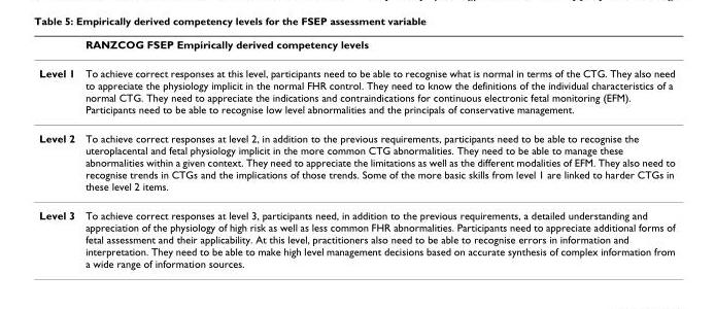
<table><thead><tr><td></td><td>RANZCOG FSEP Empirically derived competency levels</td></tr></thead><tbody><tr><td>Level 1</td><td>To achieve correct responses at this level, participants need to be able to recognise what is normal in terms of the CTG. They also need to appreciate the physiology implicit in the normal FHR control. They need to know the definitions of the individual characteristics of a normal CTG. They need to appreciate the indications and contraindications for continuous electronic fetal monitoring (EFM). Participants need to be able to recognise low level abnormalities and the principals of conservative management.</td></tr><tr><td>Level 2</td><td>To achieve correct responses at level 2, in addition to the previous requirements, participants need to be able to recognise the uteroplacental and fetal physiology implicit in the more common CTG abnormalities. They need to be able to manage these abnormalities within a given context. They need to appreciate the limitations as well as the different modalities of EFM. They also need to recognise trends in CTGs and the implications of those trends. Some of the more basic skills from level 1 are linked to harder CTGs in these level 2 items.</td></tr><tr><td>Level 3</td><td>To achieve correct responses at level 3, participants need, in addition to the previous requirements, a detailed understanding and appreciation of the physiology of high risk as well as less common FHR abnormalities. Participants need to appreciate additional forms of fetal assessment and their applicability. At this level, practitioners also need to be able to recognise errors in information and interpretation. They need to be able to make high level management decisions based on accurate synthesis of complex information from a wide range of information sources.</td></tr></tbody></table>